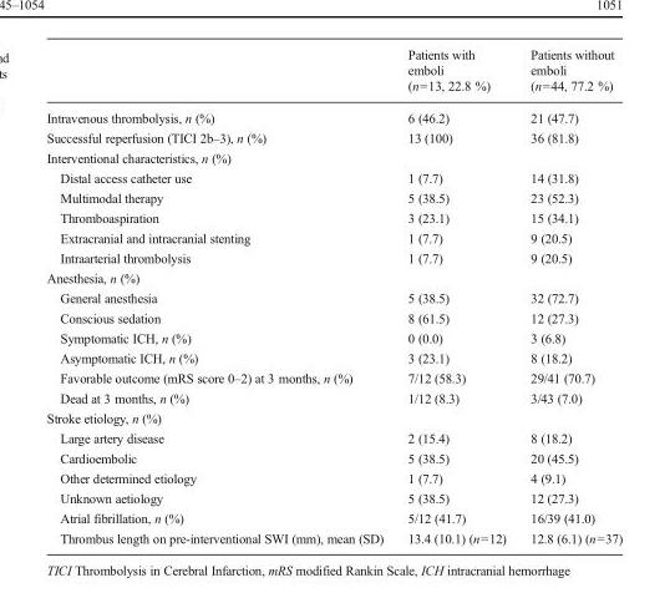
<table><thead><tr><td></td><td>Patients with emboli (n=13, 22.8 %)</td><td>Patients without emboli (n=44, 77.2 %)</td></tr></thead><tbody><tr><td>Intravenous thrombolysis, n (%)</td><td>6 (46.2)</td><td>21 (47.7)</td></tr><tr><td>Successful reperfusion (TICI 2b–3), n (%)</td><td>13 (100)</td><td>36 (81.8)</td></tr><tr><td colspan="3">Interventional characteristics, n (%)</td></tr><tr><td>Distal access catheter use</td><td>1 (7.7)</td><td>14 (31.8)</td></tr><tr><td>Multimodal therapy</td><td>5 (38.5)</td><td>23 (52.3)</td></tr><tr><td>Thromboaspiration</td><td>3 (23.1)</td><td>15 (34.1)</td></tr><tr><td>Extracranial and intracranial stenting</td><td>1 (7.7)</td><td>9 (20.5)</td></tr><tr><td>Intraarterial thrombolysis</td><td>1 (7.7)</td><td>9 (20.5)</td></tr><tr><td colspan="3">Anesthesia, n (%)</td></tr><tr><td>General anesthesia</td><td>5 (38.5)</td><td>32 (72.7)</td></tr><tr><td>Conscious sedation</td><td>8 (61.5)</td><td>12 (27.3)</td></tr><tr><td>Symptomatic ICH, n (%)</td><td>0 (0.0)</td><td>3 (6.8)</td></tr><tr><td>Asymptomatic ICH, n (%)</td><td>3 (23.1)</td><td>8 (18.2)</td></tr><tr><td>Favorable outcome (mRS score 0–2) at 3 months, n (%)</td><td>7/12 (58.3)</td><td>29/41 (70.7)</td></tr><tr><td>Dead at 3 months, n (%)</td><td>1/12 (8.3)</td><td>3/43 (7.0)</td></tr><tr><td colspan="3">Stroke etiology, n (%)</td></tr><tr><td>Large artery disease</td><td>2 (15.4)</td><td>8 (18.2)</td></tr><tr><td>Cardioembolic</td><td>5 (38.5)</td><td>20 (45.5)</td></tr><tr><td>Other determined etiology</td><td>1 (7.7)</td><td>4 (9.1)</td></tr><tr><td>Unknown aetiology</td><td>5 (38.5)</td><td>12 (27.3)</td></tr><tr><td>Atrial fibrillation, n (%)</td><td>5/12 (41.7)</td><td>16/39 (41.0)</td></tr><tr><td>Thrombus length on pre-interventional SWI (mm), mean (SD)</td><td>13.4 (10.1) (n=12)</td><td>12.8 (6.1) (n=37)</td></tr></tbody></table>